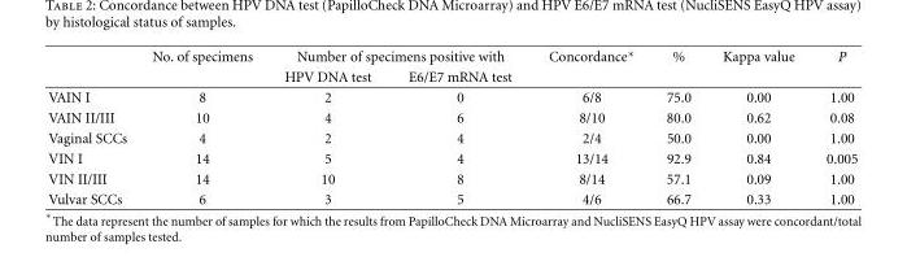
<table><thead><tr><td rowspan="2"></td><td rowspan="2">No. of specimens</td><td colspan="2">Number of specimens positive with</td><td rowspan="2">Concordance∗</td><td rowspan="2">%</td><td rowspan="2">Kappa value</td><td rowspan="2">P</td></tr><tr><td>HPV DNA test</td><td>E6/E7 mRNA test</td></tr></thead><tbody><tr><td>VAIN I</td><td>8</td><td>2</td><td>0</td><td>6/8</td><td>75.0</td><td>0.00</td><td>1.00</td></tr><tr><td>VAIN II/III</td><td>10</td><td>4</td><td>6</td><td>8/10</td><td>80.0</td><td>0.62</td><td>0.08</td></tr><tr><td>Vaginal SCCs</td><td>4</td><td>2</td><td>4</td><td>2/4</td><td>50.0</td><td>0.00</td><td>1.00</td></tr><tr><td>VIN I</td><td>14</td><td>5</td><td>4</td><td>13/14</td><td>92.9</td><td>0.84</td><td>0.005</td></tr><tr><td>VIN II/III</td><td>14</td><td>10</td><td>8</td><td>8/14</td><td>57.1</td><td>0.09</td><td>1.00</td></tr><tr><td>Vulvar SCCs</td><td>6</td><td>3</td><td>5</td><td>4/6</td><td>66.7</td><td>0.33</td><td>1.00</td></tr></tbody></table>